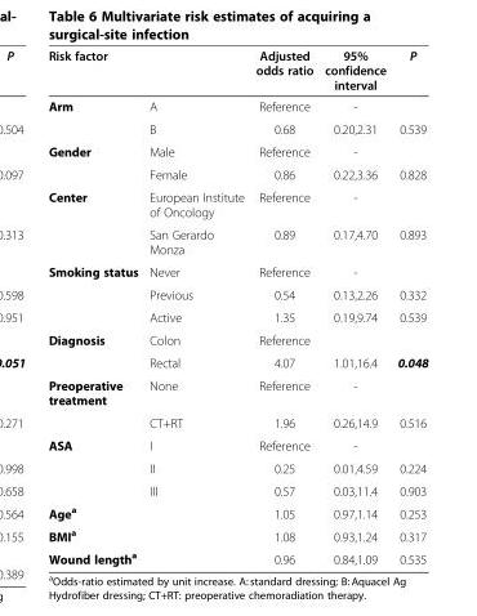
<table><thead><tr><td>Risk factor</td><td></td><td>Adjusted odds ratio</td><td>95% confidence interval</td><td>P</td></tr></thead><tbody><tr><td rowspan="2">Arm</td><td>A</td><td>Reference</td><td>-</td><td></td></tr><tr><td>B</td><td>0.68</td><td>0.20,2.31</td><td>0.539</td></tr><tr><td rowspan="2">Gender</td><td>Male</td><td>Reference</td><td>-</td><td></td></tr><tr><td>Female</td><td>0.86</td><td>0.22,3.36</td><td>0.828</td></tr><tr><td rowspan="2">Center</td><td>European Institute of Oncology</td><td>Reference</td><td>-</td><td></td></tr><tr><td>San Gerardo Monza</td><td>0.89</td><td>0.17,4.70</td><td>0.893</td></tr><tr><td rowspan="3">Smoking status</td><td>Never</td><td>Reference</td><td>-</td><td></td></tr><tr><td>Previous</td><td>0.54</td><td>0.13,2.26</td><td>0.332</td></tr><tr><td>Active</td><td>1.35</td><td>0.19,9.74</td><td>0.539</td></tr><tr><td rowspan="2">Diagnosis</td><td>Colon</td><td>Reference</td><td></td><td></td></tr><tr><td>Rectal</td><td>4.07</td><td>1.01,16.4</td><td>0.048</td></tr><tr><td rowspan="2">Preoperative treatment</td><td>None</td><td>Reference</td><td>-</td><td></td></tr><tr><td>CT+RT</td><td>1.96</td><td>0.26,14.9</td><td>0.516</td></tr><tr><td rowspan="3">ASA</td><td>I</td><td>Reference</td><td>-</td><td></td></tr><tr><td>II</td><td>0.25</td><td>0.01,4.59</td><td>0.224</td></tr><tr><td>III</td><td>0.57</td><td>0.03,11.4</td><td>0.903</td></tr><tr><td>Age<sup>a</sup></td><td></td><td>1.05</td><td>0.97,1.14</td><td>0.253</td></tr><tr><td>BMI<sup>a</sup></td><td></td><td>1.08</td><td>0.93,1.24</td><td>0.317</td></tr><tr><td>Wound length<sup>a</sup></td><td></td><td>0.96</td><td>0.84,1.09</td><td>0.535</td></tr></tbody></table>